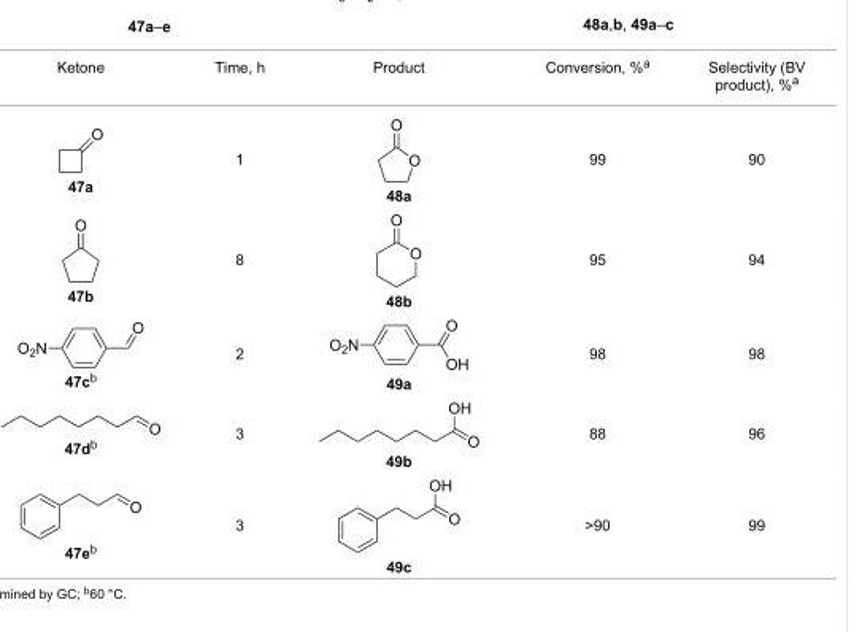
<table><tbody><tr><td>Ketone</td><td>Time, h</td><td>Product</td><td>Conversion, %<sup>a</sup></td><td>Selectivity (BV product), %<sup>a</sup></td></tr><tr><td>47a</td><td>1</td><td>48a</td><td>99</td><td>90</td></tr><tr><td>47b</td><td>8</td><td>48b</td><td>95</td><td>94</td></tr><tr><td>47cb</td><td>2</td><td>49a</td><td>98</td><td>98</td></tr><tr><td>47d<sup>b</sup></td><td>3</td><td>49b</td><td>88</td><td>96</td></tr><tr><td>47eb</td><td>3</td><td>49c</td><td>&gt;90</td><td>99</td></tr></tbody></table>